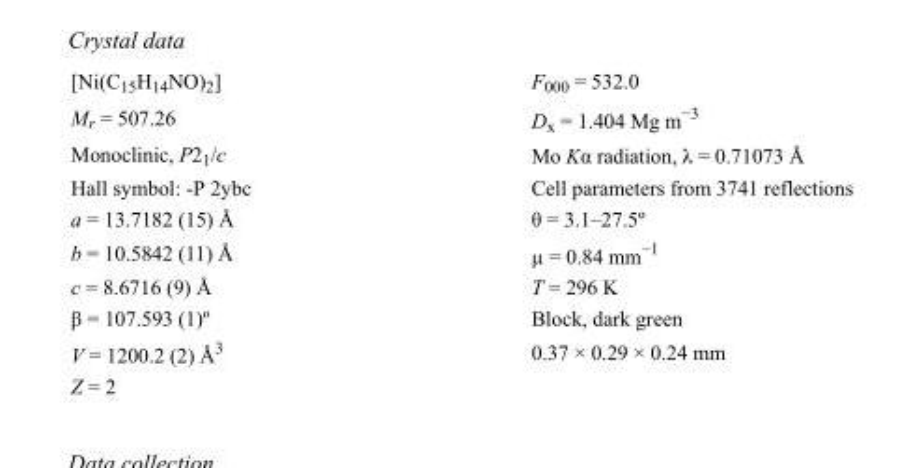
<table><tbody><tr><td>[Ni(C<sub>15</sub>H<sub>14</sub>NO)<sub>2</sub>]</td><td>F000 = 532.0</td></tr><tr><td>M<sub>r</sub> = 507.26</td><td>D<sub>x</sub> = 1.404 Mg m<sup>−3</sup></td></tr><tr><td>Monoclinic, P2<sub>1</sub>/c</td><td>Mo Kα radiation, λ = 0.71073 Å</td></tr><tr><td>Hall symbol: -P 2ybc</td><td>Cell parameters from 3741 reflections</td></tr><tr><td>a = 13.7182 (15) Å</td><td>θ = 3.1–27.5º</td></tr><tr><td>b = 10.5842 (11) Å</td><td>µ = 0.84 mm<sup>−1</sup></td></tr><tr><td>c = 8.6716 (9) Å</td><td>T = 296 K</td></tr><tr><td>β = 107.593 (1)º</td><td>Block, dark green</td></tr><tr><td>V = 1200.2 (2) Å<sup>3</sup></td><td>0.37 × 0.29 × 0.24 mm</td></tr><tr><td>Z = 2</td><td></td></tr></tbody></table>